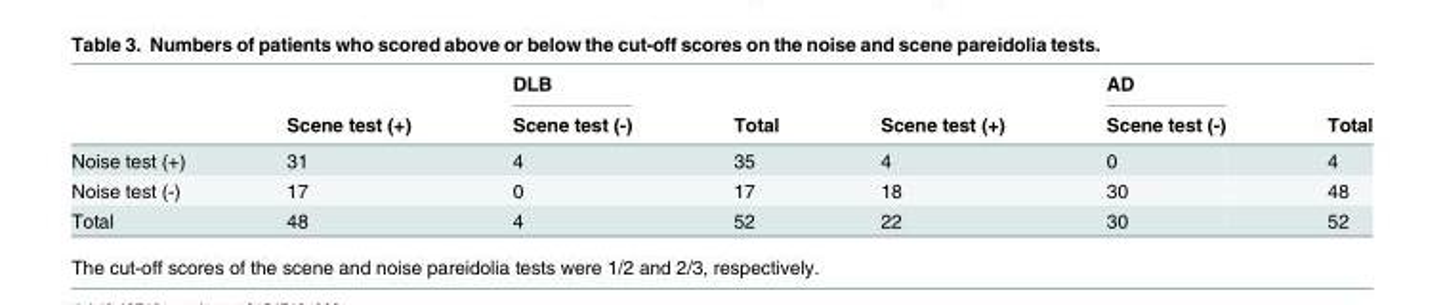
<table><thead><tr><td rowspan="2"></td><td rowspan="2">Scene test (+)</td><td rowspan="2">DLB Scene test (-)</td><td rowspan="2">Total</td><td rowspan="2">Scene test (+)</td><td rowspan="2">AD Scene test (-)</td><td rowspan="2">Total</td></tr><tr></tr></thead><tbody><tr><td>Noise test (+)</td><td>31</td><td>4</td><td>35</td><td>4</td><td>0</td><td>4</td></tr><tr><td>Noise test (-)</td><td>17</td><td>0</td><td>17</td><td>18</td><td>30</td><td>48</td></tr><tr><td>Total</td><td>48</td><td>4</td><td>52</td><td>22</td><td>30</td><td>52</td></tr></tbody></table>